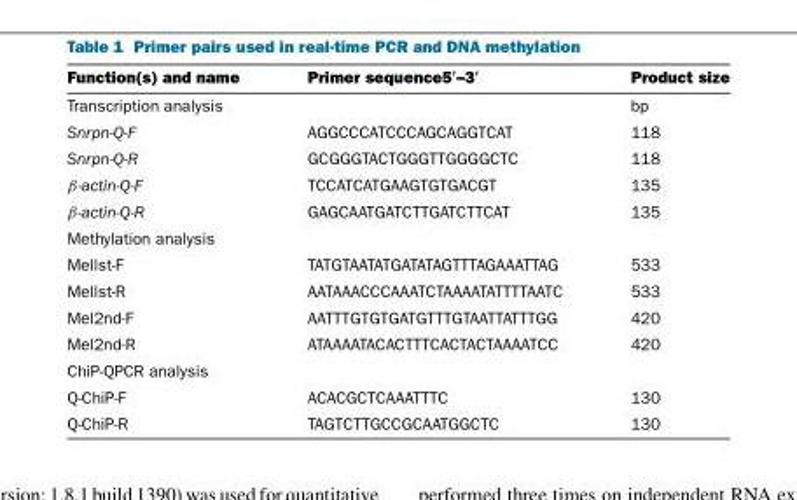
<table><thead><tr><td>Function(s) and name</td><td>Primer sequence5′–3′</td><td>Product size</td></tr></thead><tbody><tr><td>Transcription analysis</td><td></td><td>bp</td></tr><tr><td>Snrpn-Q-F</td><td>AGGCCCATCCCAGCAGGTCAT</td><td>118</td></tr><tr><td>Snrpn-Q-R</td><td>GCGGGTACTGGGTTGGGGCTC</td><td>118</td></tr><tr><td>β-actin-Q-F</td><td>TCCATCATGAAGTGTGACGT</td><td>135</td></tr><tr><td>β-actin-Q-R</td><td>GAGCAATGATCTTGATCTTCAT</td><td>135</td></tr><tr><td colspan="3">Methylation analysis</td></tr><tr><td>Mellst-F</td><td>TATGTAATATGATATAGTTTAGAAATTAG</td><td>533</td></tr><tr><td>Mellst-R</td><td>AATAAACCCAAATCTAAAATATTTTAATC</td><td>533</td></tr><tr><td>Mel2nd-F</td><td>AATTTGTGTGATGTTTGTAATTATTTGG</td><td>420</td></tr><tr><td>Mel2nd-R</td><td>ATAAAATACACTTTCACTACTAAAATCC</td><td>420</td></tr><tr><td colspan="3">ChiP-QPCR analysis</td></tr><tr><td>Q-ChiP-F</td><td>ACACGCTCAAATTTC</td><td>130</td></tr><tr><td>Q-ChiP-R</td><td>TAGTCTTGCCGCAATGGCTC</td><td>130</td></tr></tbody></table>